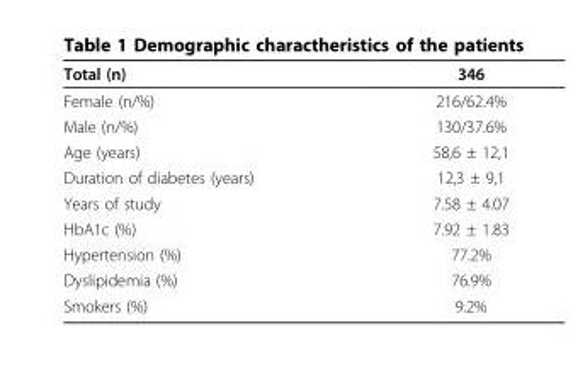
<table><thead><tr><td>Total (n)</td><td>346</td></tr></thead><tbody><tr><td>Female (n/%)</td><td>216/62.4%</td></tr><tr><td>Male (n/%)</td><td>130/37.6%</td></tr><tr><td>Age (years)</td><td>58,6 ± 12,1</td></tr><tr><td>Duration of diabetes (years)</td><td>12,3 ± 9,1</td></tr><tr><td>Years of study</td><td>7.58 ± 4.07</td></tr><tr><td>HbA1c (%)</td><td>7.92 ± 1.83</td></tr><tr><td>Hypertension (%)</td><td>77.2%</td></tr><tr><td>Dyslipidemia (%)</td><td>76.9%</td></tr><tr><td>Smokers (%)</td><td>9.2%</td></tr></tbody></table>